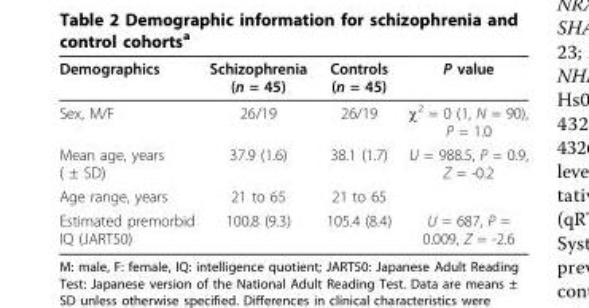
<table><thead><tr><td>Demographics</td><td>Schizophrenia (n = 45)</td><td>Controls (n = 45)</td><td>P value</td></tr></thead><tbody><tr><td>Sex, M/F</td><td>26/19</td><td>26/19</td><td>χ<sup>2</sup> = 0 (1, N = 90), P = 1.0</td></tr><tr><td>Mean age, years ( ± SD)</td><td>37.9 (1.6)</td><td>38.1 (1.7)</td><td>U = 988.5, P = 0.9, Z = -0.2</td></tr><tr><td>Age range, years</td><td>21 to 65</td><td>21 to 65</td><td></td></tr><tr><td>Estimated premorbid IQ (JART50)</td><td>100.8 (9.3)</td><td>105.4 (8.4)</td><td>U = 687, P = 0.009, Z = -2.6</td></tr></tbody></table>